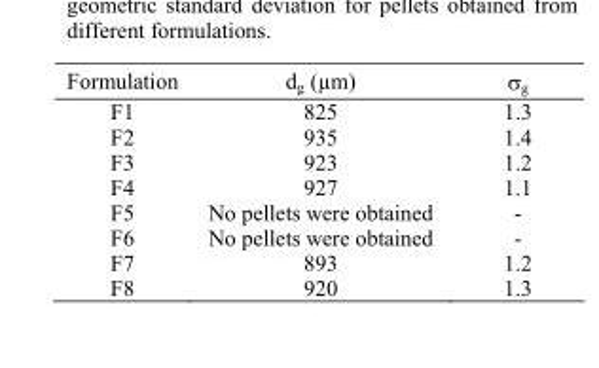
<table><thead><tr><td>Formulation</td><td>d<sub>g</sub> (µm)</td><td>σg</td></tr></thead><tbody><tr><td>F1</td><td>825</td><td>1.3</td></tr><tr><td>F2</td><td>935</td><td>1.4</td></tr><tr><td>F3</td><td>923</td><td>1.2</td></tr><tr><td>F4</td><td>927</td><td>1.1</td></tr><tr><td>F5</td><td>No pellets were obtained</td><td>-</td></tr><tr><td>F6</td><td>No pellets were obtained</td><td>-</td></tr><tr><td>F7</td><td>893</td><td>1.2</td></tr><tr><td>F8</td><td>920</td><td>1.3</td></tr></tbody></table>